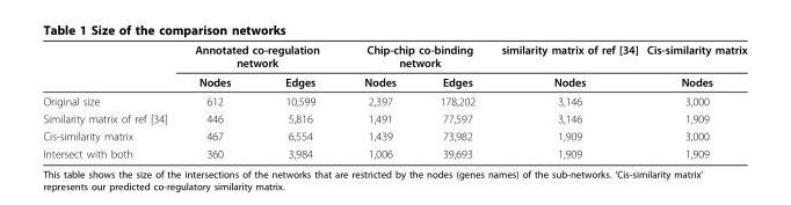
<table><thead><tr><td rowspan="2"></td><td colspan="2">Annotated co-regulation network</td><td colspan="2">Chip-chip co-binding network</td><td rowspan="2">similarity matrix of ref [34] Nodes</td><td rowspan="2">Cis-similarity matrix Nodes</td></tr><tr><td>Nodes</td><td>Edges</td><td>Nodes</td><td>Edges</td></tr></thead><tbody><tr><td>Original size</td><td>612</td><td>10,599</td><td>2,397</td><td>178,202</td><td>3,146</td><td>3,000</td></tr><tr><td>Similarity matrix of ref [34]</td><td>446</td><td>5,816</td><td>1,491</td><td>77,597</td><td>3,146</td><td>1,909</td></tr><tr><td>Cis-similarity matrix</td><td>467</td><td>6,554</td><td>1,439</td><td>73,982</td><td>1,909</td><td>3,000</td></tr><tr><td>Intersect with both</td><td>360</td><td>3,984</td><td>1,006</td><td>39,693</td><td>1,909</td><td>1,909</td></tr></tbody></table>